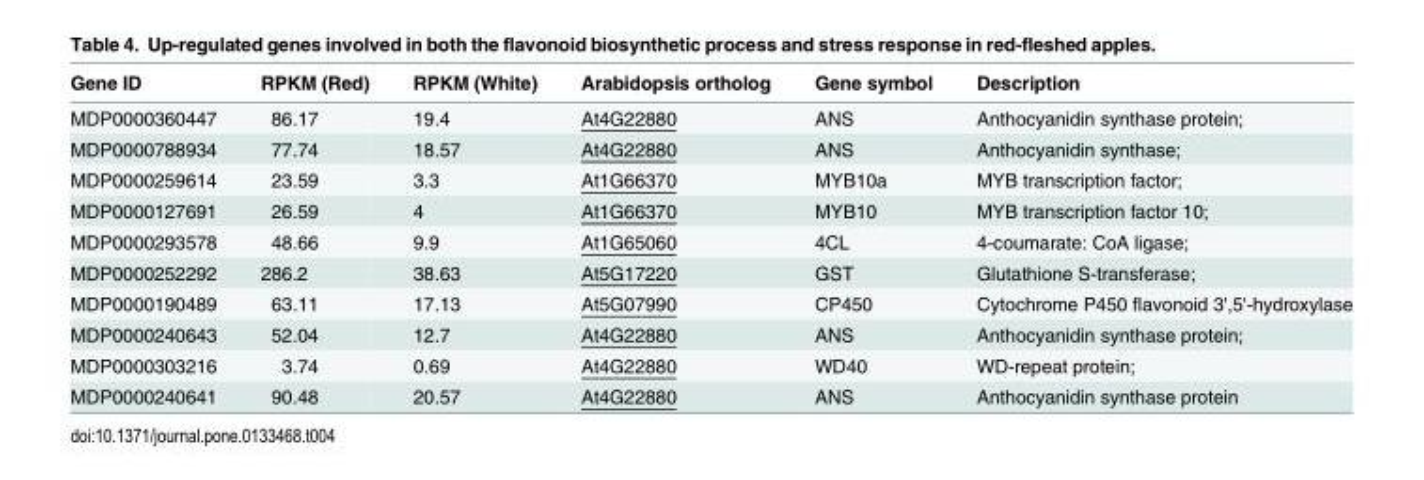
<table><thead><tr><td>Gene ID</td><td>RPKM (Red)</td><td>RPKM (White)</td><td>Arabidopsis ortholog</td><td>Gene symbol</td><td>Description</td></tr></thead><tbody><tr><td>MDP0000360447</td><td>86.17</td><td>19.4</td><td>At4G22880</td><td>ANS</td><td>Anthocyanidin synthase protein;</td></tr><tr><td>MDP0000788934</td><td>77.74</td><td>18.57</td><td>At4G22880</td><td>ANS</td><td>Anthocyanidin synthase;</td></tr><tr><td>MDP0000259614</td><td>23.59</td><td>3.3</td><td>At1G66370</td><td>MYB10a</td><td>MYB transcription factor;</td></tr><tr><td>MDP0000127691</td><td>26.59</td><td>4</td><td>At1G66370</td><td>MYB10</td><td>MYB transcription factor 10;</td></tr><tr><td>MDP0000293578</td><td>48.66</td><td>9.9</td><td>At1G65060</td><td>4CL</td><td>4-coumarate: CoA ligase;</td></tr><tr><td>MDP0000252292</td><td>286.2</td><td>38.63</td><td>At5G17220</td><td>GST</td><td>Glutathione S-transferase;</td></tr><tr><td>MDP0000190489</td><td>63.11</td><td>17.13</td><td>At5G07990</td><td>CP450</td><td>Cytochrome P450 flavonoid 3&#x27;,5&#x27;-hydroxylase</td></tr><tr><td>MDP0000240643</td><td>52.04</td><td>12.7</td><td>At4G22880</td><td>ANS</td><td>Anthocyanidin synthase protein;</td></tr><tr><td>MDP0000303216</td><td>3.74</td><td>0.69</td><td>At4G22880</td><td>WD40</td><td>WD-repeat protein;</td></tr><tr><td>MDP0000240641</td><td>90.48</td><td>20.57</td><td>At4G22880</td><td>ANS</td><td>Anthocyanidin synthase protein</td></tr></tbody></table>